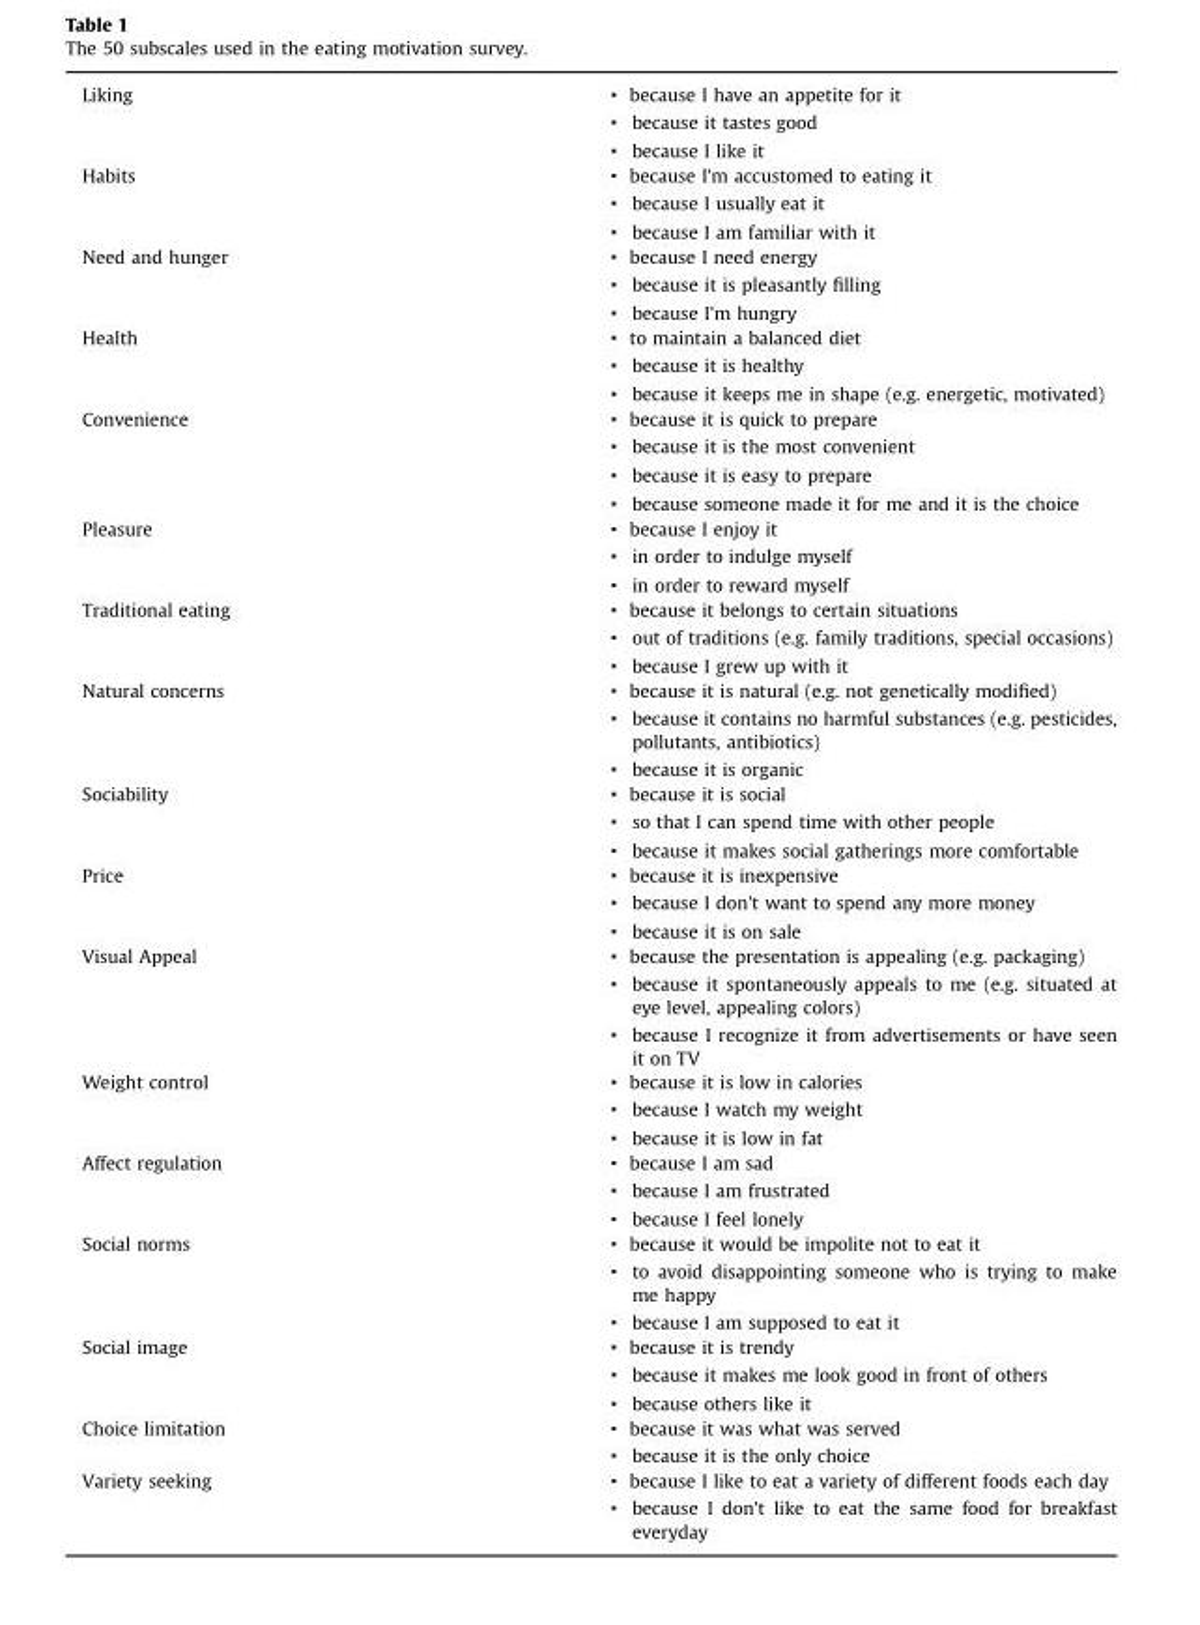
<table><tbody><tr><td>Liking</td><td>▪ because I have an appetite for it ▪ because it tastes good ▪ because I like it</td></tr><tr><td>Habits</td><td>▪ because I&#x27;m accustomed to eating it ▪ because I usually eat it ▪ because I am familiar with it</td></tr><tr><td>Need and hunger</td><td>▪ because I need energy ▪ because it is pleasantly filling ▪ because I&#x27;m hungry</td></tr><tr><td>Health</td><td>▪ to maintain a balanced diet ▪ because it is healthy ▪ because it keeps me in shape (e.g. energetic, motivated)</td></tr><tr><td>Convenience</td><td>▪ because it is quick to prepare ▪ because it is the most convenient ▪ because it is easy to prepare ▪ because someone made it for me and it is the choice</td></tr><tr><td>Pleasure</td><td>▪ because I enjoy it ▪ in order to indulge myself ▪ in order to reward myself</td></tr><tr><td>Traditional eating</td><td>▪ because it belongs to certain situations ▪ out of traditions (e.g. family traditions, special occasions) ▪ because I grew up with it</td></tr><tr><td>Natural concerns</td><td>▪ because it is natural (e.g. not genetically modified) ▪ because it contains no harmful substances (e.g. pesticides, pollutants, antibiotics) ▪ because it is organic</td></tr><tr><td>Sociability</td><td>▪ because it is social ▪ so that I can spend time with other people ▪ because it makes social gatherings more comfortable</td></tr><tr><td>Price</td><td>▪ because it is inexpensive ▪ because I don&#x27;t want to spend any more money ▪ because it is on sale</td></tr><tr><td>Visual Appeal</td><td>▪ because the presentation is appealing (e.g. packaging) ▪ because it spontaneously appeals to me (e.g. situated at eye level, appealing colors) ▪ because I recognize it from advertisements or have seen it on TV</td></tr><tr><td>Weight control</td><td>▪ because it is low in calories ▪ because I watch my weight ▪ because it is low in fat</td></tr><tr><td>Affect regulation</td><td>▪ because I am sad ▪ because I am frustrated ▪ because I feel lonely</td></tr><tr><td>Social norms</td><td>▪ because it would be impolite not to eat it ▪ to avoid disappointing someone who is trying to make me happy ▪ because I am supposed to eat it</td></tr><tr><td>Social image</td><td>▪ because it is trendy ▪ because it makes me look good in front of others ▪ because others like it</td></tr><tr><td>Choice limitation</td><td>▪ because it was what was served ▪ because it is the only choice</td></tr><tr><td>Variety seeking</td><td>▪ because I like to eat a variety of different foods each day ▪ because I don&#x27;t like to eat the same food for breakfast everyday</td></tr></tbody></table>